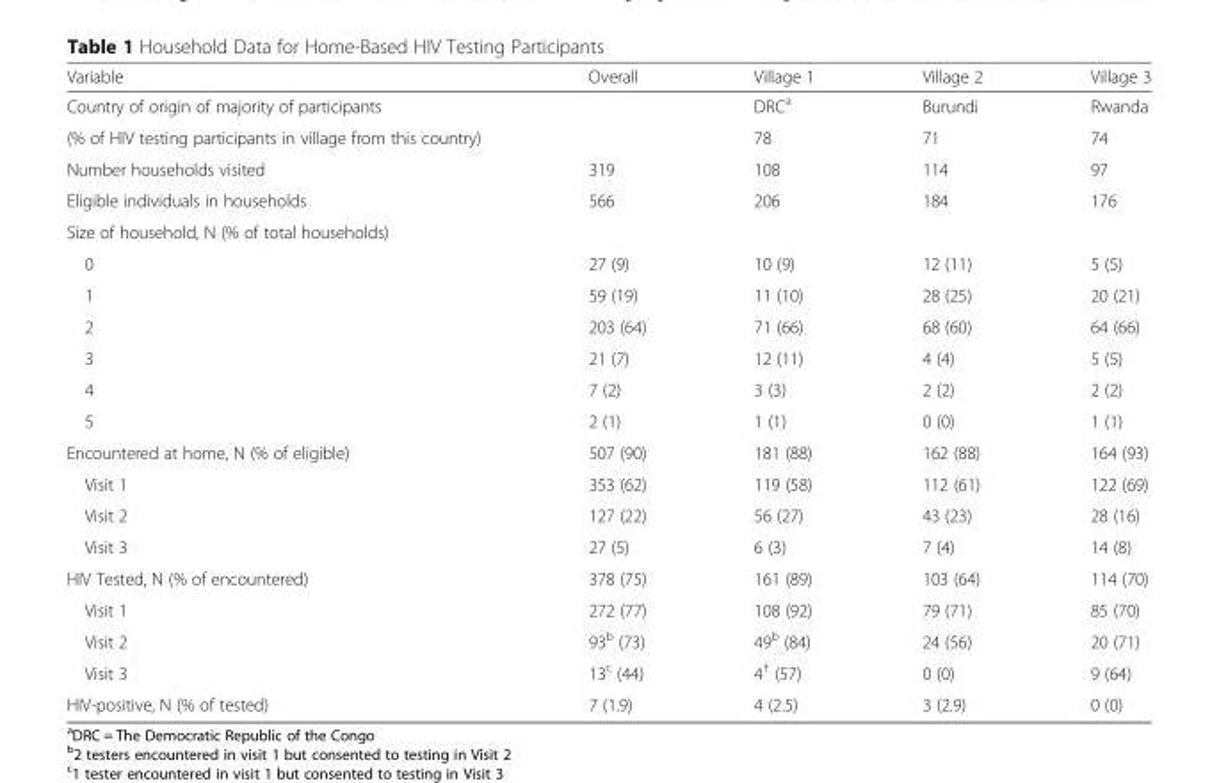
<table><thead><tr><td>Variable</td><td>Overall</td><td>Village 1</td><td>Village 2</td><td>Village 3</td></tr></thead><tbody><tr><td>Country of origin of majority of participants</td><td></td><td>DRC<sup>a</sup></td><td>Burundi</td><td>Rwanda</td></tr><tr><td>(% of HIV testing participants in village from this country)</td><td></td><td>78</td><td>71</td><td>74</td></tr><tr><td>Number households visited</td><td>319</td><td>108</td><td>114</td><td>97</td></tr><tr><td>Eligible individuals in households</td><td>566</td><td>206</td><td>184</td><td>176</td></tr><tr><td colspan="5">Size of household, N (% of total households)</td></tr><tr><td>0</td><td>27 (9)</td><td>10 (9)</td><td>12 (11)</td><td>5 (5)</td></tr><tr><td>1</td><td>59 (19)</td><td>11 (10)</td><td>28 (25)</td><td>20 (21)</td></tr><tr><td>2</td><td>203 (64)</td><td>71 (66)</td><td>68 (60)</td><td>64 (66)</td></tr><tr><td>3</td><td>21 (7)</td><td>12 (11)</td><td>4 (4)</td><td>5 (5)</td></tr><tr><td>4</td><td>7 (2)</td><td>3 (3)</td><td>2 (2)</td><td>2 (2)</td></tr><tr><td>5</td><td>2 (1)</td><td>1 (1)</td><td>0 (0)</td><td>1 (1)</td></tr><tr><td>Encountered at home, N (% of eligible)</td><td>507 (90)</td><td>181 (88)</td><td>162 (88)</td><td>164 (93)</td></tr><tr><td>Visit 1</td><td>353 (62)</td><td>119 (58)</td><td>112 (61)</td><td>122 (69)</td></tr><tr><td>Visit 2</td><td>127 (22)</td><td>56 (27)</td><td>43 (23)</td><td>28 (16)</td></tr><tr><td>Visit 3</td><td>27 (5)</td><td>6 (3)</td><td>7 (4)</td><td>14 (8)</td></tr><tr><td>HIV Tested, N (% of encountered)</td><td>378 (75)</td><td>161 (89)</td><td>103 (64)</td><td>114 (70)</td></tr><tr><td>Visit 1</td><td>272 (77)</td><td>108 (92)</td><td>79 (71)</td><td>85 (70)</td></tr><tr><td>Visit 2</td><td>93<sup>b</sup> (73)</td><td>49<sup>b</sup> (84)</td><td>24 (56)</td><td>20 (71)</td></tr><tr><td>Visit 3</td><td>13<sup>c</sup> (44)</td><td>4<sup>†</sup> (57)</td><td>0 (0)</td><td>9 (64)</td></tr><tr><td>HIV-positive, N (% of tested)</td><td>7 (1.9)</td><td>4 (2.5)</td><td>3 (2.9)</td><td>0 (0)</td></tr></tbody></table>